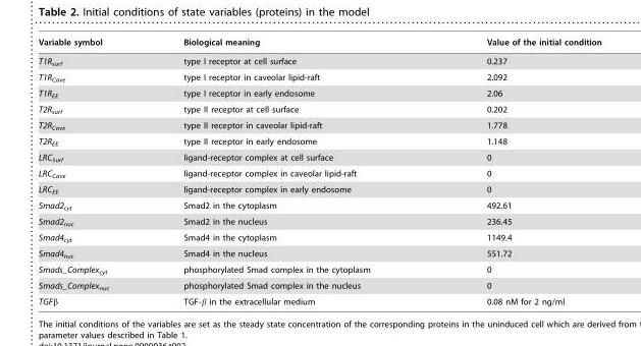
<table><thead><tr><td>Variable symbol</td><td>Biological meaning</td><td>Value of the initial condition</td></tr></thead><tbody><tr><td>T1R<sub>surf</sub></td><td>type I receptor at cell surface</td><td>0.237</td></tr><tr><td>T1R<sub>Cave</sub></td><td>type I receptor in caveolar lipid-raft</td><td>2.092</td></tr><tr><td>T1R<sub>EE</sub></td><td>type I receptor in early endosome</td><td>2.06</td></tr><tr><td>T2R<sub>surf</sub></td><td>type II receptor at cell surface</td><td>0.202</td></tr><tr><td>T2R<sub>Cave</sub></td><td>type II receptor in caveolar lipid-raft</td><td>1.778</td></tr><tr><td>T2R<sub>EE</sub></td><td>type II receptor in early endosome</td><td>1.148</td></tr><tr><td>LRC<sub>Surf</sub></td><td>ligand-receptor complex at cell surface</td><td>0</td></tr><tr><td>LRC<sub>Cave</sub></td><td>ligand-receptor complex in caveolar lipid-raft</td><td>0</td></tr><tr><td>LRC<sub>EE</sub></td><td>ligand-receptor complex in early endosome</td><td>0</td></tr><tr><td>Smad2<sub>cyt</sub></td><td>Smad2 in the cytoplasm</td><td>492.61</td></tr><tr><td>Smad2<sub>nuc</sub></td><td>Smad2 in the nucleus</td><td>236.45</td></tr><tr><td>Smad4<sub>cyt</sub></td><td>Smad4 in the cytoplasm</td><td>1149.4</td></tr><tr><td>Smad4<sub>nuc</sub></td><td>Smad4 in the nucleus</td><td>551.72</td></tr><tr><td>Smads_Complex<sub>cyt</sub></td><td>phosphorylated Smad complex in the cytoplasm</td><td>0</td></tr><tr><td>Smads_Complex<sub>nuc</sub></td><td>phosphorylated Smad complex in the nucleus</td><td>0</td></tr><tr><td>TGFβ</td><td>TGF-β in the extracellular medium</td><td>0.08 nM for 2 ng/ml</td></tr></tbody></table>